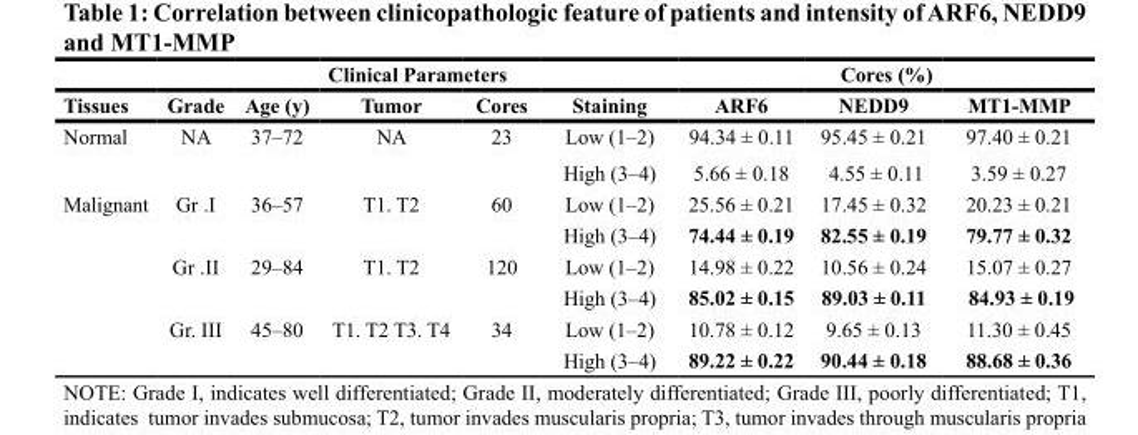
<table><thead><tr><td rowspan="2">Tissues</td><td colspan="5">Clinical Parameters</td><td colspan="3">Cores (%)</td></tr><tr><td>Grade</td><td>Age (y)</td><td>Tumor</td><td>Cores</td><td>Staining</td><td>ARF6</td><td>NEDD9</td><td>MT1-MMP</td></tr></thead><tbody><tr><td rowspan="2">Normal</td><td>NA</td><td>37–72</td><td>NA</td><td>23</td><td>Low (1–2)</td><td>94.34 ± 0.11</td><td>95.45 ± 0.21</td><td>97.40 ± 0.21</td></tr><tr><td></td><td></td><td></td><td></td><td>High (3–4)</td><td>5.66 ± 0.18</td><td>4.55 ± 0.11</td><td>3.59 ± 0.27</td></tr><tr><td rowspan="6">Malignant</td><td>Gr .I</td><td>36–57</td><td>T1. T2</td><td>60</td><td>Low (1–2)</td><td>25.56 ± 0.21</td><td>17.45 ± 0.32</td><td>20.23 ± 0.21</td></tr><tr><td></td><td></td><td></td><td></td><td>High (3–4)</td><td>74.44 ± 0.19</td><td>82.55 ± 0.19</td><td>79.77 ± 0.32</td></tr><tr><td>Gr .II</td><td>29–84</td><td>T1. T2</td><td>120</td><td>Low (1–2)</td><td>14.98 ± 0.22</td><td>10.56 ± 0.24</td><td>15.07 ± 0.27</td></tr><tr><td></td><td></td><td></td><td></td><td>High (3–4)</td><td>85.02 ± 0.15</td><td>89.03 ± 0.11</td><td>84.93 ± 0.19</td></tr><tr><td>Gr. III</td><td>45–80</td><td>T1. T2 T3. T4</td><td>34</td><td>Low (1–2)</td><td>10.78 ± 0.12</td><td>9.65 ± 0.13</td><td>11.30 ± 0.45</td></tr><tr><td></td><td></td><td></td><td></td><td>High (3–4)</td><td>89.22 ± 0.22</td><td>90.44 ± 0.18</td><td>88.68 ± 0.36</td></tr></tbody></table>